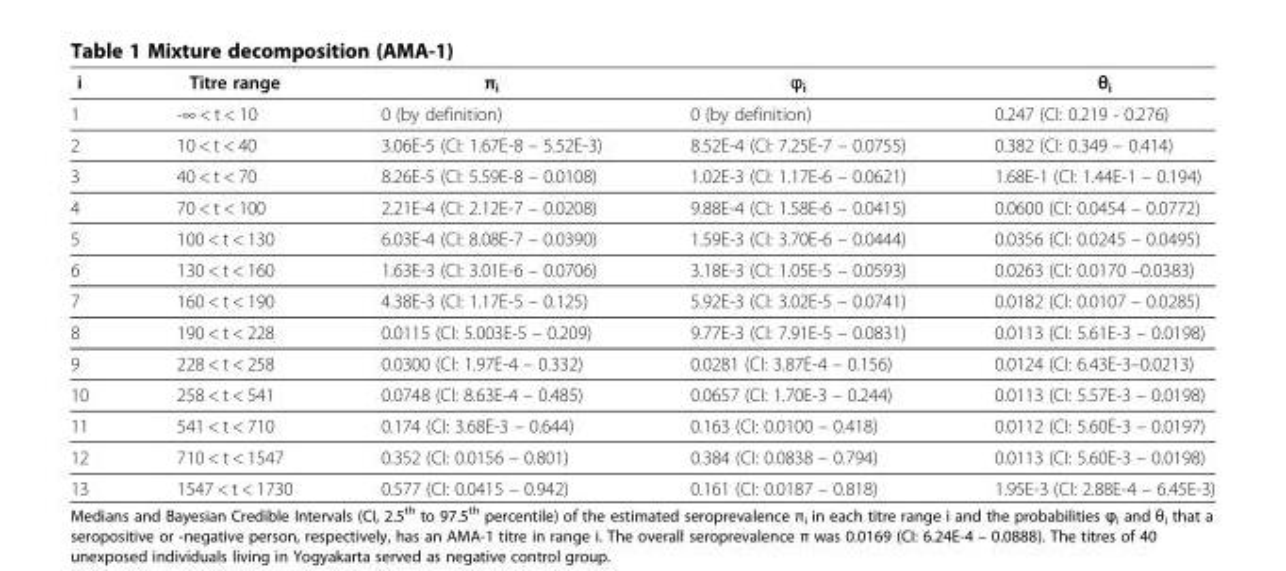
<table><thead><tr><td>i</td><td>Titre range</td><td>π<sub>i</sub></td><td>ϕ<sub>i</sub></td><td>θ<sub>i</sub></td></tr></thead><tbody><tr><td>1</td><td>-∞ &lt; t &lt; 10</td><td>0 (by definition)</td><td>0 (by definition)</td><td>0.247 (CI: 0.219 - 0.276)</td></tr><tr><td>2</td><td>10 &lt; t &lt; 40</td><td>3.06E-5 (CI: 1.67E-8 – 5.52E-3)</td><td>8.52E-4 (CI: 7.25E-7 – 0.0755)</td><td>0.382 (CI: 0.349 – 0.414)</td></tr><tr><td>3</td><td>40 &lt; t &lt; 70</td><td>8.26E-5 (CI: 5.59E-8 – 0.0108)</td><td>1.02E-3 (CI: 1.17E-6 – 0.0621)</td><td>1.68E-1 (CI: 1.44E-1 – 0.194)</td></tr><tr><td>4</td><td>70 &lt; t &lt; 100</td><td>2.21E-4 (CI: 2.12E-7 – 0.0208)</td><td>9.88E-4 (CI: 1.58E-6 – 0.0415)</td><td>0.0600 (CI: 0.0454 – 0.0772)</td></tr><tr><td>5</td><td>100 &lt; t &lt; 130</td><td>6.03E-4 (CI: 8.08E-7 – 0.0390)</td><td>1.59E-3 (CI: 3.70E-6 – 0.0444)</td><td>0.0356 (CI: 0.0245 – 0.0495)</td></tr><tr><td>6</td><td>130 &lt; t &lt; 160</td><td>1.63E-3 (CI: 3.01E-6 – 0.0706)</td><td>3.18E-3 (CI: 1.05E-5 – 0.0593)</td><td>0.0263 (CI: 0.0170 –0.0383)</td></tr><tr><td>7</td><td>160 &lt; t &lt; 190</td><td>4.38E-3 (CI: 1.17E-5 – 0.125)</td><td>5.92E-3 (CI: 3.02E-5 – 0.0741)</td><td>0.0182 (CI: 0.0107 – 0.0285)</td></tr><tr><td>8</td><td>190 &lt; t &lt; 228</td><td>0.0115 (CI: 5.003E-5 – 0.209)</td><td>9.77E-3 (CI: 7.91E-5 – 0.0831)</td><td>0.0113 (CI: 5.61E-3 – 0.0198)</td></tr><tr><td>9</td><td>228 &lt; t &lt; 258</td><td>0.0300 (CI: 1.97E-4 – 0.332)</td><td>0.0281 (CI: 3.87E-4 – 0.156)</td><td>0.0124 (CI: 6.43E-3–0.0213)</td></tr><tr><td>10</td><td>258 &lt; t &lt; 541</td><td>0.0748 (CI: 8.63E-4 – 0.485)</td><td>0.0657 (CI: 1.70E-3 – 0.244)</td><td>0.0113 (CI: 5.57E-3 – 0.0198)</td></tr><tr><td>11</td><td>541 &lt; t &lt; 710</td><td>0.174 (CI: 3.68E-3 – 0.644)</td><td>0.163 (CI: 0.0100 – 0.418)</td><td>0.0112 (CI: 5.60E-3 – 0.0197)</td></tr><tr><td>12</td><td>710 &lt; t &lt; 1547</td><td>0.352 (CI: 0.0156 – 0.801)</td><td>0.384 (CI: 0.0838 – 0.794)</td><td>0.0113 (CI: 5.60E-3 – 0.0198)</td></tr><tr><td>13</td><td>1547 &lt; t &lt; 1730</td><td>0.577 (CI: 0.0415 – 0.942)</td><td>0.161 (CI: 0.0187 – 0.818)</td><td>1.95E-3 (CI: 2.88E-4 – 6.45E-3)</td></tr></tbody></table>